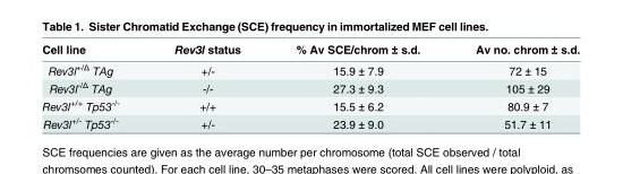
<table><thead><tr><td>Cell line</td><td>Rev3l status</td><td>% Av SCE/chrom ± s.d.</td><td>Av no. chrom ± s.d.</td></tr></thead><tbody><tr><td>Rev3l<sup>+/Δ</sup> TAg</td><td>+/-</td><td>15.9 ± 7.9</td><td>72 ± 15</td></tr><tr><td>Rev3l<sup>-/Δ</sup> TAg</td><td>-/-</td><td>27.3 ± 9.3</td><td>105 ± 29</td></tr><tr><td>Rev3l<sup>+/+</sup> Tp53<sup>-/-</sup></td><td>+/+</td><td>15.5 ± 6.2</td><td>80.9 ± 7</td></tr><tr><td>Rev3l<sup>+/-</sup> Tp53<sup>-/-</sup></td><td>+/-</td><td>23.9 ± 9.0</td><td>51.7 ± 11</td></tr></tbody></table>